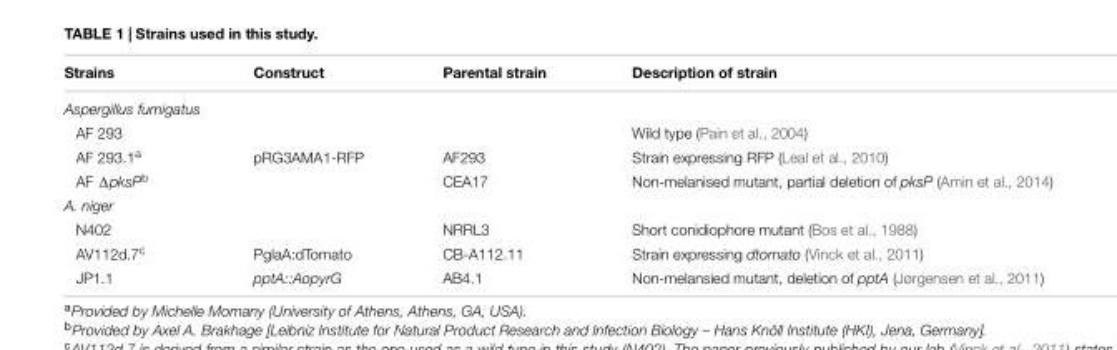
<table><thead><tr><td>Strains</td><td>Construct</td><td>Parental strain</td><td>Description of strain</td></tr></thead><tbody><tr><td colspan="4">Aspergillus fumigatus</td></tr><tr><td>AF 293</td><td></td><td></td><td>Wild type (Pain et al., 2004)</td></tr><tr><td>AF 293.1<sup>a</sup></td><td>pRG3AMA1-RFP</td><td>AF293</td><td>Strain expressing RFP (Leal et al., 2010)</td></tr><tr><td>AF ΔpksP<sup>b</sup></td><td></td><td>CEA17</td><td>Non-melanised mutant, partial deletion of pksP (Amin et al., 2014)</td></tr><tr><td colspan="4">A. niger</td></tr><tr><td>N402</td><td></td><td>NRRL3</td><td>Short conidiophore mutant (Bos et al., 1988)</td></tr><tr><td>AV112d.7<sup>c</sup></td><td>PglaA:dTomato</td><td>CB-A112.11</td><td>Strain expressing dtomato (Vinck et al., 2011)</td></tr><tr><td>JP1.1</td><td>pptA::AopyrG</td><td>AB4.1</td><td>Non-melansied mutant, deletion of pptA (Jørgensen et al., 2011)</td></tr></tbody></table>